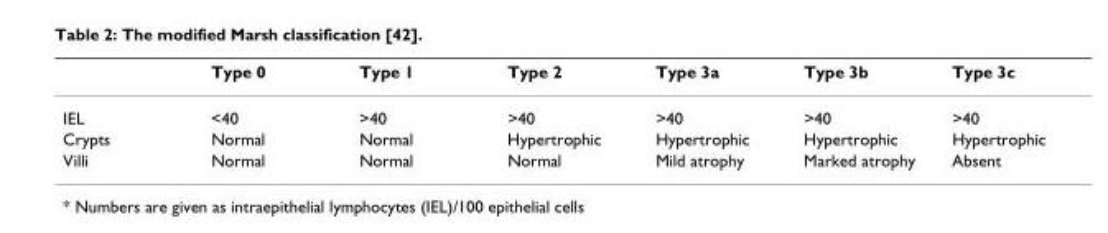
<table><thead><tr><td></td><td>Type 0</td><td>Type 1</td><td>Type 2</td><td>Type 3a</td><td>Type 3b</td><td>Type 3c</td></tr></thead><tbody><tr><td>IEL</td><td>&lt;40</td><td>&gt;40</td><td>&gt;40</td><td>&gt;40</td><td>&gt;40</td><td>&gt;40</td></tr><tr><td>Crypts</td><td>Normal</td><td>Normal</td><td>Hypertrophic</td><td>Hypertrophic</td><td>Hypertrophic</td><td>Hypertrophic</td></tr><tr><td>Villi</td><td>Normal</td><td>Normal</td><td>Normal</td><td>Mild atrophy</td><td>Marked atrophy</td><td>Absent</td></tr></tbody></table>